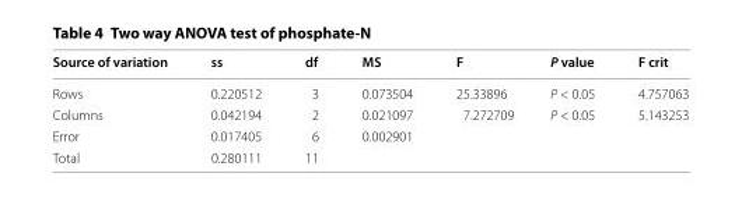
<table><thead><tr><td>Source of variation</td><td>ss</td><td>df</td><td>MS</td><td>F</td><td>P value</td><td>F crit</td></tr></thead><tbody><tr><td>Rows</td><td>0.220512</td><td>3</td><td>0.073504</td><td>25.33896</td><td>P &lt; 0.05</td><td>4.757063</td></tr><tr><td>Columns</td><td>0.042194</td><td>2</td><td>0.021097</td><td>7.272709</td><td>P &lt; 0.05</td><td>5.143253</td></tr><tr><td>Error</td><td>0.017405</td><td>6</td><td>0.002901</td><td></td><td></td><td></td></tr><tr><td>Total</td><td>0.280111</td><td>11</td><td></td><td></td><td></td><td></td></tr></tbody></table>